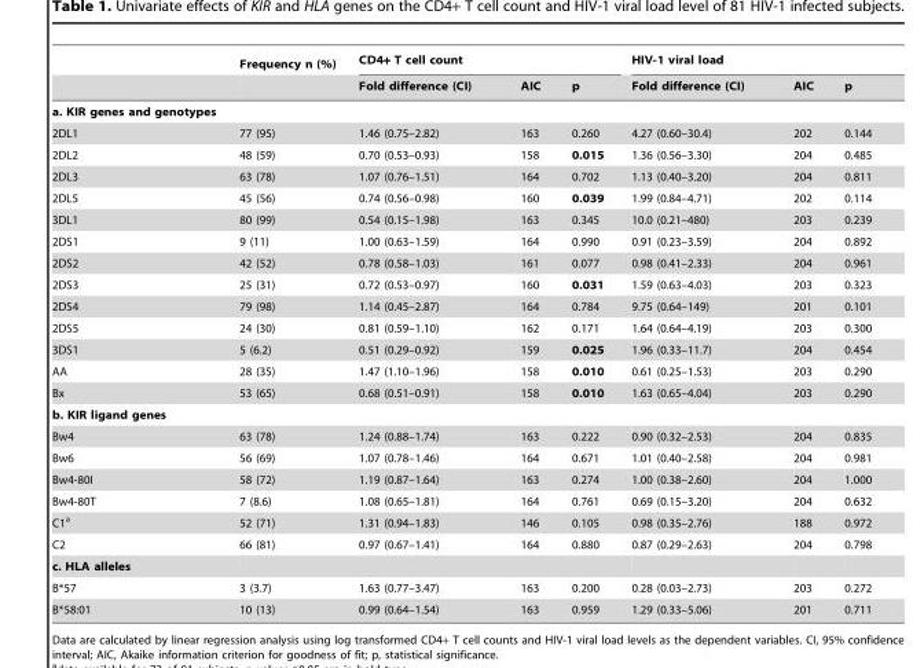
<table><thead><tr><td rowspan="2"></td><td rowspan="2">Frequency n (%)</td><td colspan="3">CD4+ T cell count</td><td colspan="3">HIV-1 viral load</td></tr><tr><td>Fold difference (CI)</td><td>AIC</td><td>p</td><td>Fold difference (CI)</td><td>AIC</td><td>p</td></tr></thead><tbody><tr><td colspan="8">a. KIR genes and genotypes</td></tr><tr><td>2DL1</td><td>77 (95)</td><td>1.46 (0.75–2.82)</td><td>163</td><td>0.260</td><td>4.27 (0.60–30.4)</td><td>202</td><td>0.144</td></tr><tr><td>2DL2</td><td>48 (59)</td><td>0.70 (0.53–0.93)</td><td>158</td><td>0.015</td><td>1.36 (0.56–3.30)</td><td>204</td><td>0.485</td></tr><tr><td>2DL3</td><td>63 (78)</td><td>1.07 (0.76–1.51)</td><td>164</td><td>0.702</td><td>1.13 (0.40–3.20)</td><td>204</td><td>0.811</td></tr><tr><td>2DL5</td><td>45 (56)</td><td>0.74 (0.56–0.98)</td><td>160</td><td>0.039</td><td>1.99 (0.84–4.71)</td><td>202</td><td>0.114</td></tr><tr><td>3DL1</td><td>80 (99)</td><td>0.54 (0.15–1.98)</td><td>163</td><td>0.345</td><td>10.0 (0.21–480)</td><td>203</td><td>0.239</td></tr><tr><td>2DS1</td><td>9 (11)</td><td>1.00 (0.63–1.59)</td><td>164</td><td>0.990</td><td>0.91 (0.23–3.59)</td><td>204</td><td>0.892</td></tr><tr><td>2DS2</td><td>42 (52)</td><td>0.78 (0.58–1.03)</td><td>161</td><td>0.077</td><td>0.98 (0.41–2.33)</td><td>204</td><td>0.961</td></tr><tr><td>2DS3</td><td>25 (31)</td><td>0.72 (0.53–0.97)</td><td>160</td><td>0.031</td><td>1.59 (0.63–4.03)</td><td>203</td><td>0.323</td></tr><tr><td>2DS4</td><td>79 (98)</td><td>1.14 (0.45–2.87)</td><td>164</td><td>0.784</td><td>9.75 (0.64–149)</td><td>201</td><td>0.101</td></tr><tr><td>2DS5</td><td>24 (30)</td><td>0.81 (0.59–1.10)</td><td>162</td><td>0.171</td><td>1.64 (0.64–4.19)</td><td>203</td><td>0.300</td></tr><tr><td>3DS1</td><td>5 (6.2)</td><td>0.51 (0.29–0.92)</td><td>159</td><td>0.025</td><td>1.96 (0.33–11.7)</td><td>204</td><td>0.454</td></tr><tr><td>AA</td><td>28 (35)</td><td>1.47 (1.10–1.96)</td><td>158</td><td>0.010</td><td>0.61 (0.25–1.53)</td><td>203</td><td>0.290</td></tr><tr><td>Bx</td><td>53 (65)</td><td>0.68 (0.51–0.91)</td><td>158</td><td>0.010</td><td>1.63 (0.65–4.04)</td><td>203</td><td>0.290</td></tr><tr><td colspan="8">b. KIR ligand genes</td></tr><tr><td>Bw4</td><td>63 (78)</td><td>1.24 (0.88–1.74)</td><td>163</td><td>0.222</td><td>0.90 (0.32–2.53)</td><td>204</td><td>0.835</td></tr><tr><td>Bw6</td><td>56 (69)</td><td>1.07 (0.78–1.46)</td><td>164</td><td>0.671</td><td>1.01 (0.40–2.58)</td><td>204</td><td>0.981</td></tr><tr><td>Bw4-80I</td><td>58 (72)</td><td>1.19 (0.87–1.64)</td><td>163</td><td>0.274</td><td>1.00 (0.38–2.60)</td><td>204</td><td>1.000</td></tr><tr><td>Bw4-80T</td><td>7 (8.6)</td><td>1.08 (0.65–1.81)</td><td>164</td><td>0.761</td><td>0.69 (0.15–3.20)</td><td>204</td><td>0.632</td></tr><tr><td>C1<sup>a</sup></td><td>52 (71)</td><td>1.31 (0.94–1.83)</td><td>146</td><td>0.105</td><td>0.98 (0.35–2.76)</td><td>188</td><td>0.972</td></tr><tr><td>C2</td><td>66 (81)</td><td>0.97 (0.67–1.41)</td><td>164</td><td>0.880</td><td>0.87 (0.29–2.63)</td><td>204</td><td>0.798</td></tr><tr><td colspan="8">c. HLA alleles</td></tr><tr><td>B*57</td><td>3 (3.7)</td><td>1.63 (0.77–3.47)</td><td>163</td><td>0.200</td><td>0.28 (0.03–2.73)</td><td>203</td><td>0.272</td></tr><tr><td>B*58:01</td><td>10 (13)</td><td>0.99 (0.64–1.54)</td><td>163</td><td>0.959</td><td>1.29 (0.33–5.06)</td><td>201</td><td>0.711</td></tr></tbody></table>